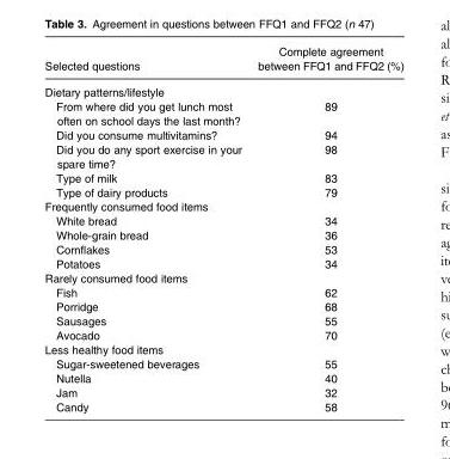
<table><thead><tr><td>Selected questions</td><td>Complete agreement between FFQ1 and FFQ2 (%)</td></tr></thead><tbody><tr><td colspan="2">Dietary patterns/lifestyle</td></tr><tr><td>From where did you get lunch most often on school days the last month?</td><td>89</td></tr><tr><td>Did you consume multivitamins?</td><td>94</td></tr><tr><td>Did you do any sport exercise in your spare time?</td><td>98</td></tr><tr><td>Type of milk</td><td>83</td></tr><tr><td>Type of dairy products</td><td>79</td></tr><tr><td colspan="2">Frequently consumed food items</td></tr><tr><td>White bread</td><td>34</td></tr><tr><td>Whole-grain bread</td><td>36</td></tr><tr><td>Cornflakes</td><td>53</td></tr><tr><td>Potatoes</td><td>34</td></tr><tr><td colspan="2">Rarely consumed food items</td></tr><tr><td>Fish</td><td>62</td></tr><tr><td>Porridge</td><td>68</td></tr><tr><td>Sausages</td><td>55</td></tr><tr><td>Avocado</td><td>70</td></tr><tr><td colspan="2">Less healthy food items</td></tr><tr><td>Sugar-sweetened beverages</td><td>55</td></tr><tr><td>Nutella</td><td>40</td></tr><tr><td>Jam</td><td>32</td></tr><tr><td>Candy</td><td>58</td></tr></tbody></table>